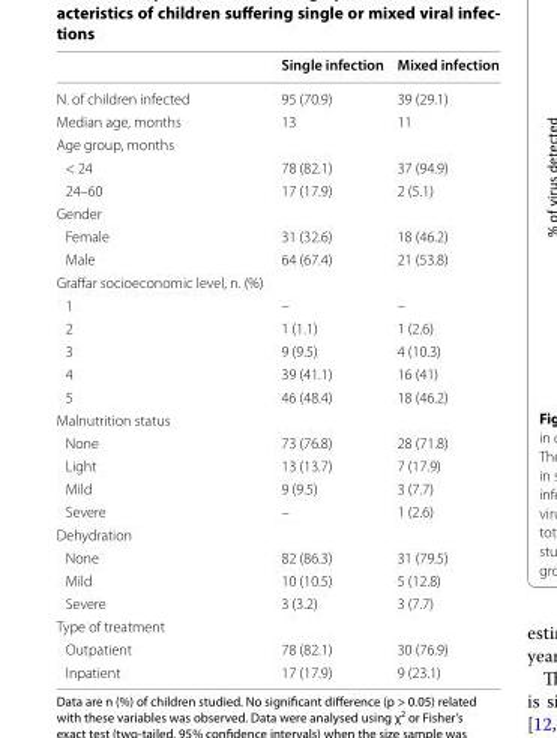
<table><thead><tr><td></td><td>Single infection</td><td>Mixed infection</td></tr></thead><tbody><tr><td>N. of children infected</td><td>95 (70.9)</td><td>39 (29.1)</td></tr><tr><td>Median age, months</td><td>13</td><td>11</td></tr><tr><td colspan="3">Age group, months</td></tr><tr><td>&lt; 24</td><td>78 (82.1)</td><td>37 (94.9)</td></tr><tr><td>24–60</td><td>17 (17.9)</td><td>2 (5.1)</td></tr><tr><td colspan="3">Gender</td></tr><tr><td>Female</td><td>31 (32.6)</td><td>18 (46.2)</td></tr><tr><td>Male</td><td>64 (67.4)</td><td>21 (53.8)</td></tr><tr><td colspan="3">Graffar socioeconomic level, n. (%)</td></tr><tr><td>1</td><td>–</td><td>–</td></tr><tr><td>2</td><td>1 (1.1)</td><td>1 (2.6)</td></tr><tr><td>3</td><td>9 (9.5)</td><td>4 (10.3)</td></tr><tr><td>4</td><td>39 (41.1)</td><td>16 (41)</td></tr><tr><td>5</td><td>46 (48.4)</td><td>18 (46.2)</td></tr><tr><td colspan="3">Malnutrition status</td></tr><tr><td>None</td><td>73 (76.8)</td><td>28 (71.8)</td></tr><tr><td>Light</td><td>13 (13.7)</td><td>7 (17.9)</td></tr><tr><td>Mild</td><td>9 (9.5)</td><td>3 (7.7)</td></tr><tr><td>Severe</td><td>–</td><td>1 (2.6)</td></tr><tr><td colspan="3">Dehydration</td></tr><tr><td>None</td><td>82 (86.3)</td><td>31 (79.5)</td></tr><tr><td>Mild</td><td>10 (10.5)</td><td>5 (12.8)</td></tr><tr><td>Severe</td><td>3 (3.2)</td><td>3 (7.7)</td></tr><tr><td colspan="3">Type of treatment</td></tr><tr><td>Outpatient</td><td>78 (82.1)</td><td>30 (76.9)</td></tr><tr><td>Inpatient</td><td>17 (17.9)</td><td>9 (23.1)</td></tr></tbody></table>